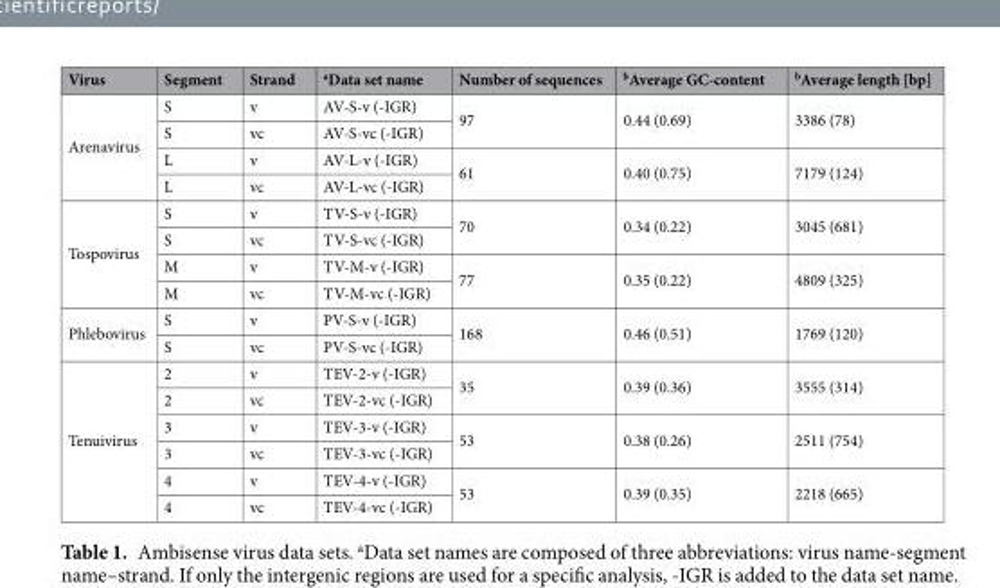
<table><thead><tr><td>Virus</td><td>Segment</td><td>Strand</td><td><sup>a</sup>Data set name</td><td>Number of sequences</td><td><sup>b</sup>Average GC-content</td><td><sup>b</sup>Average length [bp]</td></tr></thead><tbody><tr><td rowspan="4">Arenavirus</td><td>S</td><td>v</td><td>AV-S-v (-IGR)</td><td rowspan="2">97</td><td rowspan="2">0.44 (0.69)</td><td rowspan="2">3386 (78)</td></tr><tr><td>S</td><td>vc</td><td>AV-S-vc (-IGR)</td></tr><tr><td>L</td><td>v</td><td>AV-L-v (-IGR)</td><td rowspan="2">61</td><td rowspan="2">0.40 (0.75)</td><td rowspan="2">7179 (124)</td></tr><tr><td>L</td><td>vc</td><td>AV-L-vc (-IGR)</td></tr><tr><td rowspan="4">Tospovirus</td><td>S</td><td>v</td><td>TV-S-v (-IGR)</td><td rowspan="2">70</td><td rowspan="2">0.34 (0.22)</td><td rowspan="2">3045 (681)</td></tr><tr><td>S</td><td>vc</td><td>TV-S-vc (-IGR)</td></tr><tr><td>M</td><td>v</td><td>TV-M-v (-IGR)</td><td rowspan="2">77</td><td rowspan="2">0.35 (0.22)</td><td rowspan="2">4809 (325)</td></tr><tr><td>M</td><td>vc</td><td>TV-M-vc (-IGR)</td></tr><tr><td rowspan="2">Phlebovirus</td><td>S</td><td>v</td><td>PV-S-v (-IGR)</td><td rowspan="2">168</td><td rowspan="2">0.46 (0.51)</td><td rowspan="2">1769 (120)</td></tr><tr><td>S</td><td>vc</td><td>PV-S-vc (-IGR)</td></tr><tr><td rowspan="6">Tenuivirus</td><td>2</td><td>v</td><td>TEV-2-v (-IGR)</td><td rowspan="2">35</td><td rowspan="2">0.39 (0.36)</td><td rowspan="2">3555 (314)</td></tr><tr><td>2</td><td>vc</td><td>TEV-2-vc (-IGR)</td></tr><tr><td>3</td><td>v</td><td>TEV-3-v (-IGR)</td><td rowspan="2">53</td><td rowspan="2">0.38 (0.26)</td><td rowspan="2">2511 (754)</td></tr><tr><td>3</td><td>vc</td><td>TEV-3-vc (-IGR)</td></tr><tr><td>4</td><td>v</td><td>TEV-4-v (-IGR)</td><td rowspan="2">53</td><td rowspan="2">0.39 (0.35)</td><td rowspan="2">2218 (665)</td></tr><tr><td>4</td><td>vc</td><td>TEV-4-vc (-IGR)</td></tr></tbody></table>